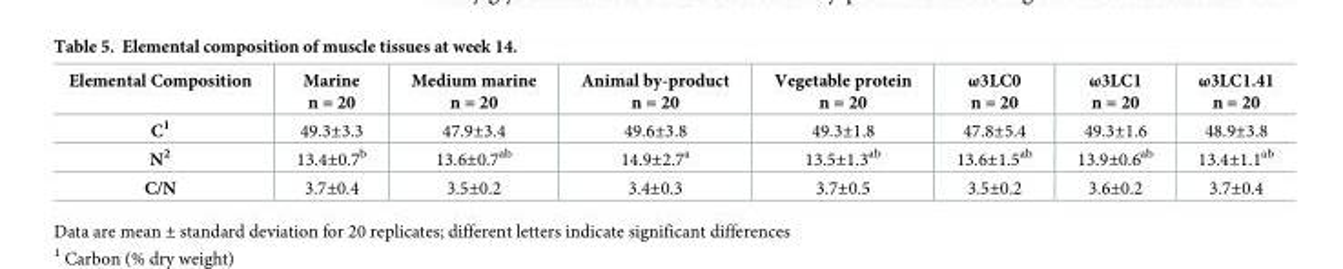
<table><thead><tr><td>Elemental Composition</td><td>Marine n = 20</td><td>Medium marine n = 20</td><td>Animal by-product n = 20</td><td>Vegetable protein n = 20</td><td>ω3LC0 n = 20</td><td>ω3LC1 n = 20</td><td>ω3LC1.41 n = 20</td></tr></thead><tbody><tr><td>C<sup>1</sup></td><td>49.3±3.3</td><td>47.9±3.4</td><td>49.6±3.8</td><td>49.3±1.8</td><td>47.8±5.4</td><td>49.3±1.6</td><td>48.9±3.8</td></tr><tr><td>N<sup>2</sup></td><td>13.4±0.7<sup>b</sup></td><td>13.6±0.7<sup>ab</sup></td><td>14.9±2.7<sup>a</sup></td><td>13.5±1.3<sup>ab</sup></td><td>13.6±1.5<sup>ab</sup></td><td>13.9±0.6<sup>ab</sup></td><td>13.4±1.1<sup>ab</sup></td></tr><tr><td>C/N</td><td>3.7±0.4</td><td>3.5±0.2</td><td>3.4±0.3</td><td>3.7±0.5</td><td>3.5±0.2</td><td>3.6±0.2</td><td>3.7±0.4</td></tr></tbody></table>